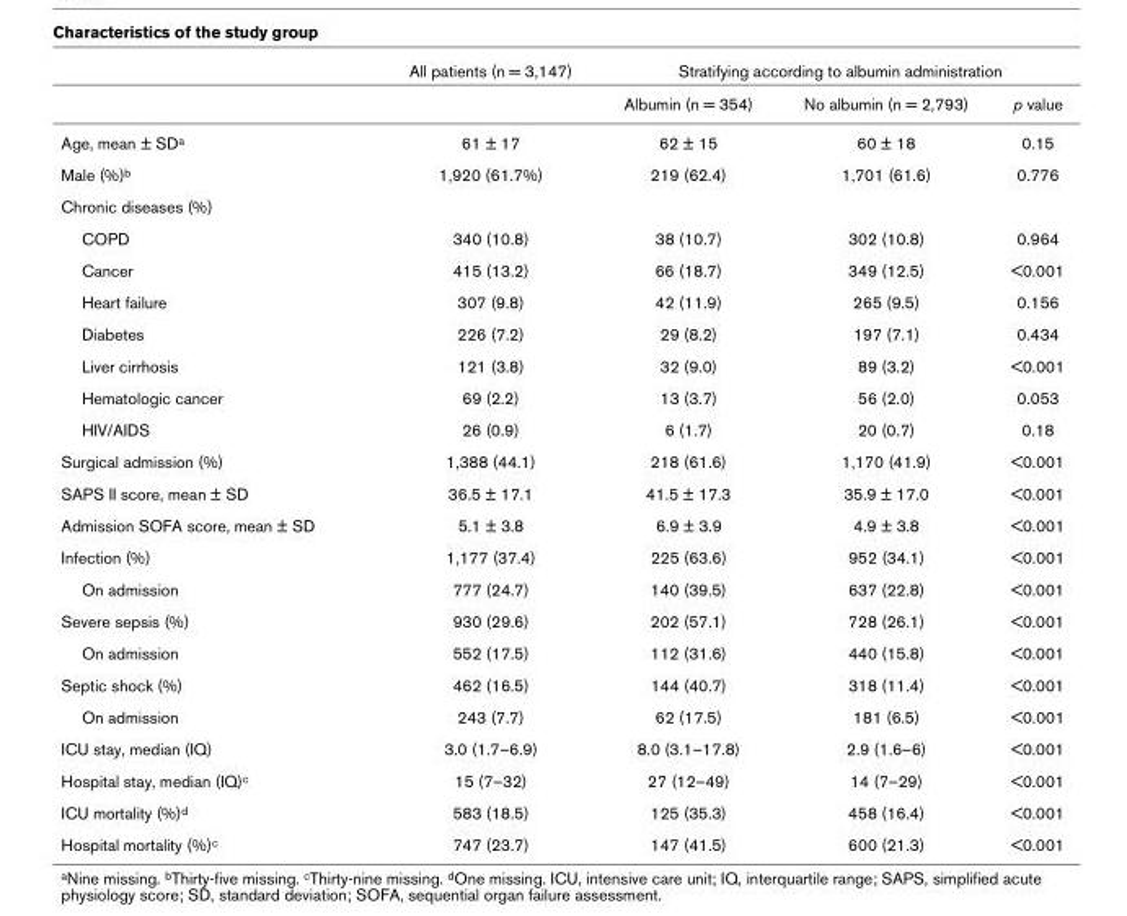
<table><thead><tr><td rowspan="2"></td><td rowspan="2">All patients (n = 3,147)</td><td colspan="3">Stratifying according to albumin administration</td></tr><tr><td>Albumin (n = 354)</td><td>No albumin (n = 2,793)</td><td>p value</td></tr></thead><tbody><tr><td>Age, mean ± SDa</td><td>61 ± 17</td><td>62 ± 15</td><td>60 ± 18</td><td>0.15</td></tr><tr><td>Male (%)b</td><td>1,920 (61.7%)</td><td>219 (62.4)</td><td>1,701 (61.6)</td><td>0.776</td></tr><tr><td colspan="5">Chronic diseases (%)</td></tr><tr><td>COPD</td><td>340 (10.8)</td><td>38 (10.7)</td><td>302 (10.8)</td><td>0.964</td></tr><tr><td>Cancer</td><td>415 (13.2)</td><td>66 (18.7)</td><td>349 (12.5)</td><td>&lt;0.001</td></tr><tr><td>Heart failure</td><td>307 (9.8)</td><td>42 (11.9)</td><td>265 (9.5)</td><td>0.156</td></tr><tr><td>Diabetes</td><td>226 (7.2)</td><td>29 (8.2)</td><td>197 (7.1)</td><td>0.434</td></tr><tr><td>Liver cirrhosis</td><td>121 (3.8)</td><td>32 (9.0)</td><td>89 (3.2)</td><td>&lt;0.001</td></tr><tr><td>Hematologic cancer</td><td>69 (2.2)</td><td>13 (3.7)</td><td>56 (2.0)</td><td>0.053</td></tr><tr><td>HIV/AIDS</td><td>26 (0.9)</td><td>6 (1.7)</td><td>20 (0.7)</td><td>0.18</td></tr><tr><td>Surgical admission (%)</td><td>1,388 (44.1)</td><td>218 (61.6)</td><td>1,170 (41.9)</td><td>&lt;0.001</td></tr><tr><td>SAPS II score, mean ± SD</td><td>36.5 ± 17.1</td><td>41.5 ± 17.3</td><td>35.9 ± 17.0</td><td>&lt;0.001</td></tr><tr><td>Admission SOFA score, mean ± SD</td><td>5.1 ± 3.8</td><td>6.9 ± 3.9</td><td>4.9 ± 3.8</td><td>&lt;0.001</td></tr><tr><td>Infection (%)</td><td>1,177 (37.4)</td><td>225 (63.6)</td><td>952 (34.1)</td><td>&lt;0.001</td></tr><tr><td>On admission</td><td>777 (24.7)</td><td>140 (39.5)</td><td>637 (22.8)</td><td>&lt;0.001</td></tr><tr><td>Severe sepsis (%)</td><td>930 (29.6)</td><td>202 (57.1)</td><td>728 (26.1)</td><td>&lt;0.001</td></tr><tr><td>On admission</td><td>552 (17.5)</td><td>112 (31.6)</td><td>440 (15.8)</td><td>&lt;0.001</td></tr><tr><td>Septic shock (%)</td><td>462 (16.5)</td><td>144 (40.7)</td><td>318 (11.4)</td><td>&lt;0.001</td></tr><tr><td>On admission</td><td>243 (7.7)</td><td>62 (17.5)</td><td>181 (6.5)</td><td>&lt;0.001</td></tr><tr><td>ICU stay, median (IQ)</td><td>3.0 (1.7–6.9)</td><td>8.0 (3.1–17.8)</td><td>2.9 (1.6–6)</td><td>&lt;0.001</td></tr><tr><td>Hospital stay, median (IQ)c</td><td>15 (7–32)</td><td>27 (12–49)</td><td>14 (7–29)</td><td>&lt;0.001</td></tr><tr><td>ICU mortality (%)d</td><td>583 (18.5)</td><td>125 (35.3)</td><td>458 (16.4)</td><td>&lt;0.001</td></tr><tr><td>Hospital mortality (%)c</td><td>747 (23.7)</td><td>147 (41.5)</td><td>600 (21.3)</td><td>&lt;0.001</td></tr></tbody></table>